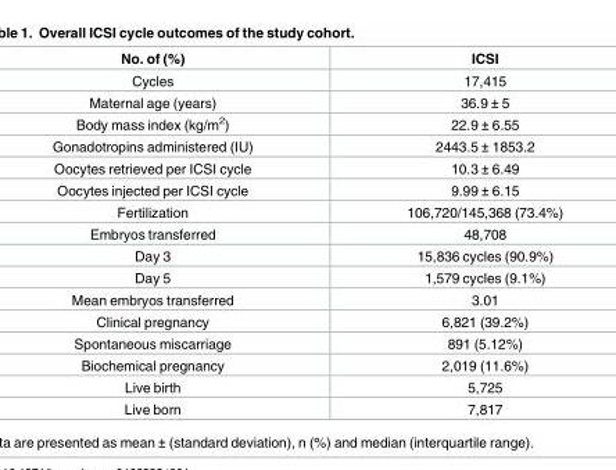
<table><thead><tr><td>No. of (%)</td><td>ICSI</td></tr></thead><tbody><tr><td>Cycles</td><td>17,415</td></tr><tr><td>Maternal age (years)</td><td>36.9 ± 5</td></tr><tr><td>Body mass index (kg/m<sup>2</sup>)</td><td>22.9 ± 6.55</td></tr><tr><td>Gonadotropins administered (IU)</td><td>2443.5 ± 1853.2</td></tr><tr><td>Oocytes retrieved per ICSI cycle</td><td>10.3 ± 6.49</td></tr><tr><td>Oocytes injected per ICSI cycle</td><td>9.99 ± 6.15</td></tr><tr><td>Fertilization</td><td>106,720/145,368 (73.4%)</td></tr><tr><td>Embryos transferred</td><td>48,708</td></tr><tr><td>Day 3</td><td>15,836 cycles (90.9%)</td></tr><tr><td>Day 5</td><td>1,579 cycles (9.1%)</td></tr><tr><td>Mean embryos transferred</td><td>3.01</td></tr><tr><td>Clinical pregnancy</td><td>6,821 (39.2%)</td></tr><tr><td>Spontaneous miscarriage</td><td>891 (5.12%)</td></tr><tr><td>Biochemical pregnancy</td><td>2,019 (11.6%)</td></tr><tr><td>Live birth</td><td>5,725</td></tr><tr><td>Live born</td><td>7,817</td></tr></tbody></table>